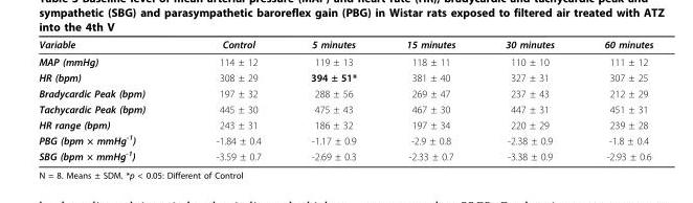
<table><thead><tr><td>Variable</td><td>Control</td><td>5 minutes</td><td>15 minutes</td><td>30 minutes</td><td>60 minutes</td></tr></thead><tbody><tr><td>MAP (mmHg)</td><td>114 ± 12</td><td>119 ± 13</td><td>118 ± 11</td><td>110 ± 10</td><td>111 ± 12</td></tr><tr><td>HR (bpm)</td><td>308 ± 29</td><td>394 ± 51*</td><td>381 ± 40</td><td>327 ± 31</td><td>307 ± 25</td></tr><tr><td>Bradycardic Peak (bpm)</td><td>197 ± 32</td><td>288 ± 56</td><td>269 ± 47</td><td>237 ± 43</td><td>212 ± 29</td></tr><tr><td>Tachycardic Peak (bpm)</td><td>445 ± 30</td><td>475 ± 43</td><td>467 ± 30</td><td>447 ± 31</td><td>451 ± 31</td></tr><tr><td>HR range (bpm)</td><td>243 ± 31</td><td>186 ± 32</td><td>197 ± 34</td><td>220 ± 29</td><td>239 ± 28</td></tr><tr><td>PBG (bpm × mmHg<sup>-1</sup>)</td><td>-1.84 ± 0.4</td><td>-1.17 ± 0.9</td><td>-2.9 ± 0.8</td><td>-2.38 ± 0.9</td><td>-1.8 ± 0.4</td></tr><tr><td>SBG (bpm × mmHg<sup>-1</sup>)</td><td>-3.59 ± 0.7</td><td>-2.69 ± 0.3</td><td>-2.33 ± 0.7</td><td>-3.38 ± 0.9</td><td>-2.93 ± 0.6</td></tr></tbody></table>